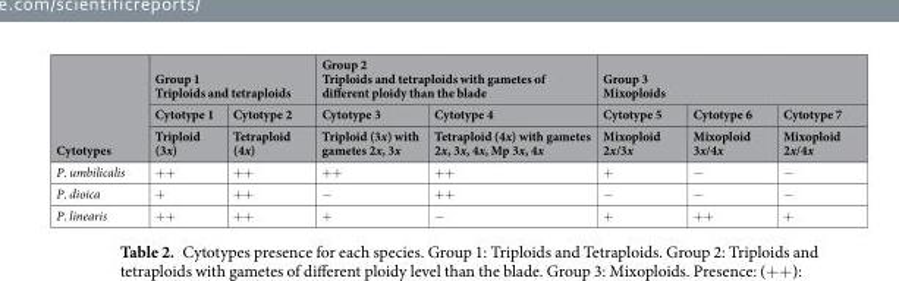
<table><thead><tr><td rowspan="3">Cytotypes</td><td colspan="2">Group 1 Triploids and tetraploids</td><td colspan="2">Group 2 Triploids and tetraploids with gametes of different ploidy than the blade</td><td colspan="3">Group 3 Mixoploids</td></tr><tr><td rowspan="2">Cytotype 1 Triploid (3x)</td><td rowspan="2">Cytotype 2 Tetraploid (4x)</td><td rowspan="2">Cytotype 3 Triploid (3x) with gametes 2x, 3x</td><td rowspan="2">Cytotype 4 Tetraploid (4x) with gametes 2x, 3x, 4x, Mp 3x, 4x</td><td rowspan="2">Cytotype 5 Mixoploid 2x/3x</td><td rowspan="2">Cytotype 6 Mixoploid 3x/4x</td><td rowspan="2">Cytotype 7 Mixoploid 2x/4x</td></tr><tr></tr></thead><tbody><tr><td>P. umbilicalis</td><td>++</td><td>++</td><td>++</td><td>++</td><td>+</td><td>−</td><td>−</td></tr><tr><td>P. dioica</td><td>+</td><td>++</td><td>−</td><td>++</td><td>−</td><td>−</td><td>−</td></tr><tr><td>P. linearis</td><td>++</td><td>++</td><td>+</td><td>−</td><td>+</td><td>++</td><td>+</td></tr></tbody></table>